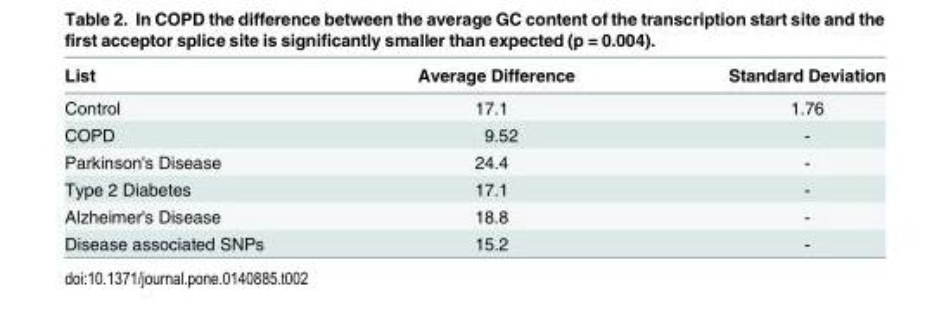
<table><thead><tr><td>List</td><td>Average Difference</td><td>Standard Deviation</td></tr></thead><tbody><tr><td>Control</td><td>17.1</td><td>1.76</td></tr><tr><td>COPD</td><td>9.52</td><td>-</td></tr><tr><td>Parkinson&#x27;s Disease</td><td>24.4</td><td>-</td></tr><tr><td>Type 2 Diabetes</td><td>17.1</td><td>-</td></tr><tr><td>Alzheimer&#x27;s Disease</td><td>18.8</td><td>-</td></tr><tr><td>Disease associated SNPs</td><td>15.2</td><td>-</td></tr></tbody></table>